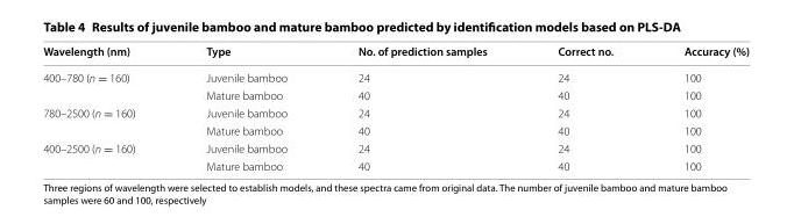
<table><thead><tr><td>Wavelength (nm)</td><td>Type</td><td>No. of prediction samples</td><td>Correct no.</td><td>Accuracy (%)</td></tr></thead><tbody><tr><td rowspan="2">400–780 (n = 160)</td><td>Juvenile bamboo</td><td>24</td><td>24</td><td>100</td></tr><tr><td>Mature bamboo</td><td>40</td><td>40</td><td>100</td></tr><tr><td rowspan="2">780–2500 (n = 160)</td><td>Juvenile bamboo</td><td>24</td><td>24</td><td>100</td></tr><tr><td>Mature bamboo</td><td>40</td><td>40</td><td>100</td></tr><tr><td rowspan="2">400–2500 (n = 160)</td><td>Juvenile bamboo</td><td>24</td><td>24</td><td>100</td></tr><tr><td>Mature bamboo</td><td>40</td><td>40</td><td>100</td></tr></tbody></table>